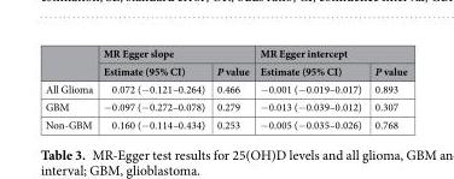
<table><thead><tr><td rowspan="2"></td><td colspan="2">MR Egger slope</td><td colspan="2">MR Egger intercept</td></tr><tr><td>Estimate (95% CI)</td><td>P value</td><td>Estimate (95% CI)</td><td>P value</td></tr></thead><tbody><tr><td>All Glioma</td><td>0.072 (−0.121–0.264)</td><td>0.466</td><td>−0.001 (−0.019–0.017)</td><td>0.893</td></tr><tr><td>GBM</td><td>−0.097 (−0.272–0.078)</td><td>0.279</td><td>−0.013 (−0.039–0.012)</td><td>0.307</td></tr><tr><td>Non-GBM</td><td>0.160 (−0.114–0.434)</td><td>0.253</td><td>−0.005 (−0.035–0.026)</td><td>0.768</td></tr></tbody></table>